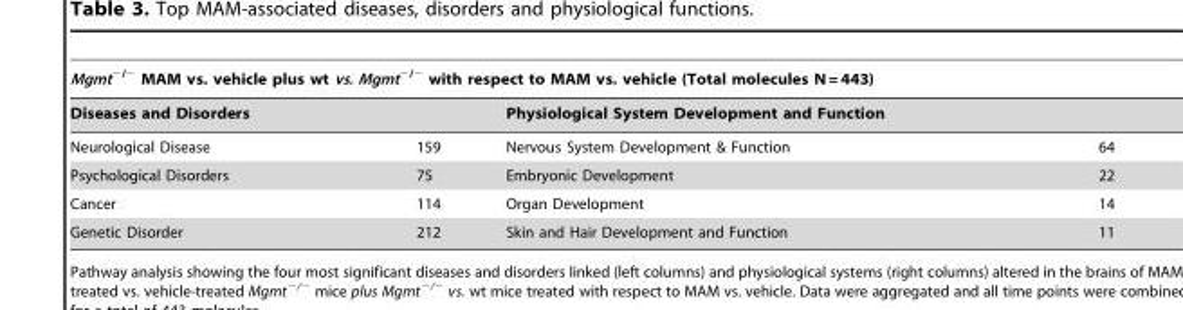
<table><thead><tr><td colspan="4">Mgmt<sup>−/−</sup> MAM vs. vehicle plus wt vs. Mgmt<sup>−/−</sup> with respect to MAM vs. vehicle (Total molecules N = 443)</td></tr><tr><td colspan="2">Diseases and Disorders</td><td colspan="2">Physiological System Development and Function</td></tr><tr><td>Neurological Disease</td><td>159</td><td>Nervous System Development &amp; Function</td><td>64</td></tr></thead><tbody><tr><td>Psychological Disorders</td><td>75</td><td>Embryonic Development</td><td>22</td></tr><tr><td>Cancer</td><td>114</td><td>Organ Development</td><td>14</td></tr><tr><td>Genetic Disorder</td><td>212</td><td>Skin and Hair Development and Function</td><td>11</td></tr></tbody></table>